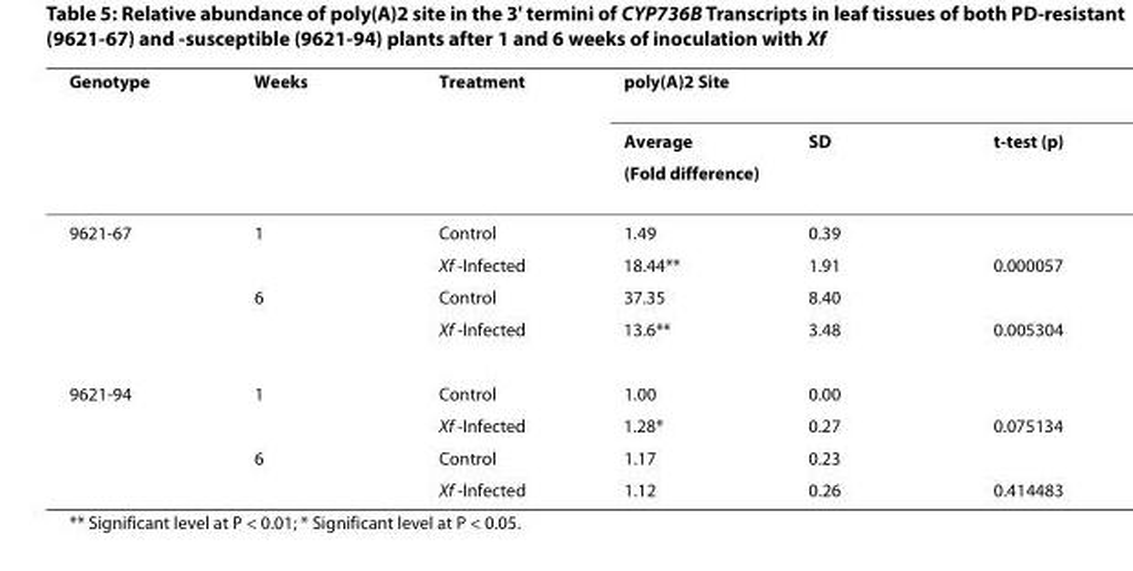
<table><thead><tr><td rowspan="3">Genotype</td><td rowspan="3">Weeks</td><td rowspan="3">Treatment</td><td colspan="3">poly(A)2 Site</td></tr><tr><td rowspan="2">Average (Fold difference)</td><td rowspan="2">SD</td><td rowspan="2">t-test (p)</td></tr><tr></tr></thead><tbody><tr><td rowspan="4">9621-67</td><td>1</td><td>Control</td><td>1.49</td><td>0.39</td><td></td></tr><tr><td></td><td>Xf -Infected</td><td>18.44**</td><td>1.91</td><td>0.000057</td></tr><tr><td>6</td><td>Control</td><td>37.35</td><td>8.40</td><td></td></tr><tr><td></td><td>Xf -Infected</td><td>13.6**</td><td>3.48</td><td>0.005304</td></tr><tr><td rowspan="4">9621-94</td><td>1</td><td>Control</td><td>1.00</td><td>0.00</td><td></td></tr><tr><td></td><td>Xf -Infected</td><td>1.28*</td><td>0.27</td><td>0.075134</td></tr><tr><td>6</td><td>Control</td><td>1.17</td><td>0.23</td><td></td></tr><tr><td></td><td>Xf -Infected</td><td>1.12</td><td>0.26</td><td>0.414483</td></tr></tbody></table>